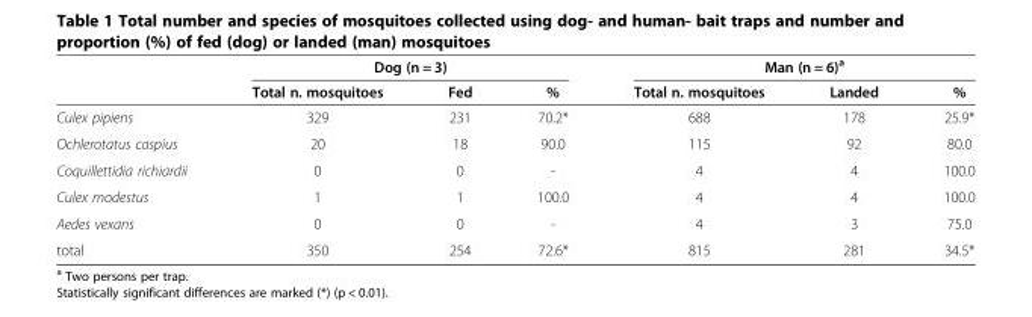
<table><thead><tr><td rowspan="2"></td><td colspan="3">Dog (n = 3)</td><td colspan="3">Man (n = 6)<sup>a</sup></td></tr><tr><td>Total n. mosquitoes</td><td>Fed</td><td>%</td><td>Total n. mosquitoes</td><td>Landed</td><td>%</td></tr></thead><tbody><tr><td>Culex pipiens</td><td>329</td><td>231</td><td>70.2*</td><td>688</td><td>178</td><td>25.9*</td></tr><tr><td>Ochlerotatus caspius</td><td>20</td><td>18</td><td>90.0</td><td>115</td><td>92</td><td>80.0</td></tr><tr><td>Coquillettidia richiardii</td><td>0</td><td>0</td><td>-</td><td>4</td><td>4</td><td>100.0</td></tr><tr><td>Culex modestus</td><td>1</td><td>1</td><td>100.0</td><td>4</td><td>4</td><td>100.0</td></tr><tr><td>Aedes vexans</td><td>0</td><td>0</td><td>-</td><td>4</td><td>3</td><td>75.0</td></tr><tr><td>total</td><td>350</td><td>254</td><td>72.6*</td><td>815</td><td>281</td><td>34.5*</td></tr></tbody></table>